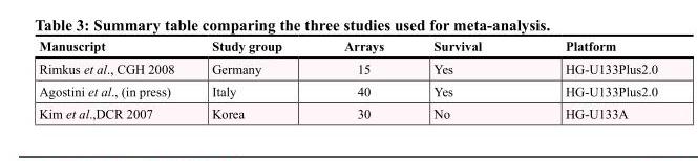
<table><thead><tr><td>Manuscript</td><td>Study group</td><td>Arrays</td><td>Survival</td><td>Platform</td></tr></thead><tbody><tr><td>Rimkus et al., CGH 2008</td><td>Germany</td><td>15</td><td>Yes</td><td>HG-U133Plus2.0</td></tr><tr><td>Agostini et al., (in press)</td><td>Italy</td><td>40</td><td>Yes</td><td>HG-U133Plus2.0</td></tr><tr><td>Kim et al.,DCR 2007</td><td>Korea</td><td>30</td><td>No</td><td>HG-U133A</td></tr></tbody></table>